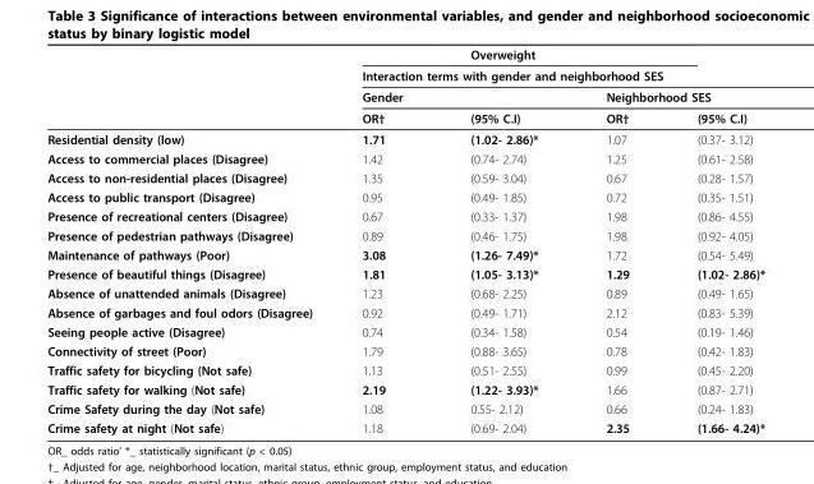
<table><thead><tr><td rowspan="4"></td><td></td><td>Overweight</td><td></td><td></td></tr><tr><td colspan="4">Interaction terms with gender and neighborhood SES</td></tr><tr><td rowspan="2">Gender OR†</td><td rowspan="2">(95% C.I)</td><td colspan="2">Neighborhood SES</td></tr><tr><td>OR†</td><td>(95% C.I)</td></tr></thead><tbody><tr><td>Residential density (low)</td><td>1.71</td><td>(1.02- 2.86)*</td><td>1.07</td><td>(0.37- 3.12)</td></tr><tr><td>Access to commercial places (Disagree)</td><td>1.42</td><td>(0.74- 2.74)</td><td>1.25</td><td>(0.61- 2.58)</td></tr><tr><td>Access to non-residential places (Disagree)</td><td>1.35</td><td>(0.59- 3.04)</td><td>0.67</td><td>(0.28- 1.57)</td></tr><tr><td>Access to public transport (Disagree)</td><td>0.95</td><td>(0.49- 1.85)</td><td>0.72</td><td>(0.35- 1.51)</td></tr><tr><td>Presence of recreational centers (Disagree)</td><td>0.67</td><td>(0.33- 1.37)</td><td>1.98</td><td>(0.86- 4.55)</td></tr><tr><td>Presence of pedestrian pathways (Disagree)</td><td>0.89</td><td>(0.46- 1.75)</td><td>1.98</td><td>(0.92- 4.05)</td></tr><tr><td>Maintenance of pathways (Poor)</td><td>3.08</td><td>(1.26- 7.49)*</td><td>1.72</td><td>(0.54- 5.49)</td></tr><tr><td>Presence of beautiful things (Disagree)</td><td>1.81</td><td>(1.05- 3.13)*</td><td>1.29</td><td>(1.02- 2.86)*</td></tr><tr><td>Absence of unattended animals (Disagree)</td><td>1.23</td><td>(0.68- 2.25)</td><td>0.89</td><td>(0.49- 1.65)</td></tr><tr><td>Absence of garbages and foul odors (Disagree)</td><td>0.92</td><td>(0.49- 1.71)</td><td>2.12</td><td>(0.83- 5.39)</td></tr><tr><td>Seeing people active (Disagree)</td><td>0.74</td><td>(0.34- 1.58)</td><td>0.54</td><td>(0.19- 1.46)</td></tr><tr><td>Connectivity of street (Poor)</td><td>1.79</td><td>(0.88- 3.65)</td><td>0.78</td><td>(0.42- 1.83)</td></tr><tr><td>Traffic safety for bicycling (Not safe)</td><td>1.13</td><td>(0.51- 2.55)</td><td>0.99</td><td>(0.45- 2.20)</td></tr><tr><td>Traffic safety for walking (Not safe)</td><td>2.19</td><td>(1.22- 3.93)*</td><td>1.66</td><td>(0.87- 2.71)</td></tr><tr><td>Crime Safety during the day (Not safe)</td><td>1.08</td><td>0.55- 2.12)</td><td>0.66</td><td>(0.24- 1.83)</td></tr><tr><td>Crime safety at night (Not safe)</td><td>1.18</td><td>(0.69- 2.04)</td><td>2.35</td><td>(1.66- 4.24)*</td></tr></tbody></table>